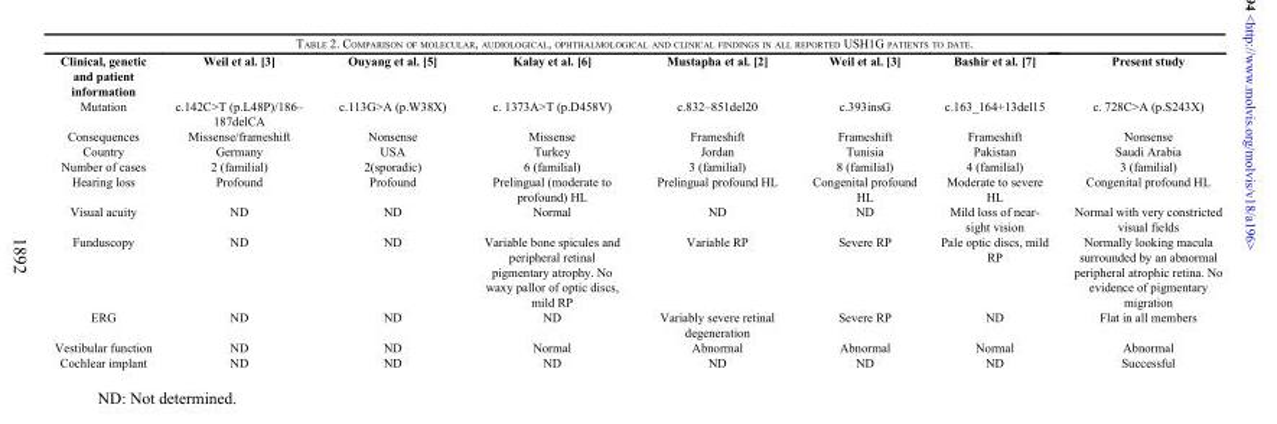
<table><thead><tr><td>Clinical, genetic and patient information</td><td>Weil et al. [3]</td><td>Ouyang et al. [5]</td><td>Kalay et al. [6]</td><td>Mustapha et al. [2]</td><td>Weil et al. [3]</td><td>Bashir et al. [7]</td><td>Present study</td></tr></thead><tbody><tr><td>Mutation</td><td>c.142C&gt;T (p.L48P)/186– 187delCA</td><td>c.113G&gt;A (p.W38X)</td><td>c. 1373A&gt;T (p.D458V)</td><td>c.832–851del20</td><td>c.393insG</td><td>c.163_164+13del15</td><td>c. 728C&gt;A (p.S243X)</td></tr><tr><td>Consequences</td><td>Missense/frameshift</td><td>Nonsense</td><td>Missense</td><td>Frameshift</td><td>Frameshift</td><td>Frameshift</td><td>Nonsense</td></tr><tr><td>Country</td><td>Germany</td><td>USA</td><td>Turkey</td><td>Jordan</td><td>Tunisia</td><td>Pakistan</td><td>Saudi Arabia</td></tr><tr><td>Number of cases</td><td>2 (familial)</td><td>2(sporadic)</td><td>6 (familial)</td><td>3 (familial)</td><td>8 (familial)</td><td>4 (familial)</td><td>3 (familial)</td></tr><tr><td>Hearing loss</td><td>Profound</td><td>Profound</td><td>Prelingual (moderate to profound) HL</td><td>Prelingual profound HL</td><td>Congenital profound HL</td><td>Moderate to severe HL</td><td>Congenital profound HL</td></tr><tr><td>Visual acuity</td><td>ND</td><td>ND</td><td>Normal</td><td>ND</td><td>ND</td><td>Mild loss of near- sight vision</td><td>Normal with very constricted visual fields</td></tr><tr><td>Funduscopy</td><td>ND</td><td>ND</td><td>Variable bone spicules and peripheral retinal pigmentary atrophy. No waxy pallor of optic discs, mild RP</td><td>Variable RP</td><td>Severe RP</td><td>Pale optic discs, mild RP</td><td>Normally looking macula surrounded by an abnormal peripheral atrophic retina. No evidence of pigmentary migration</td></tr><tr><td>ERG</td><td>ND</td><td>ND</td><td>ND</td><td>Variably severe retinal degeneration</td><td>Severe RP</td><td>ND</td><td>Flat in all members</td></tr><tr><td>Vestibular function</td><td>ND</td><td>ND</td><td>Normal</td><td>Abnormal</td><td>Abnormal</td><td>Normal</td><td>Abnormal</td></tr><tr><td>Cochlear implant</td><td>ND</td><td>ND</td><td>ND</td><td>ND</td><td>ND</td><td>ND</td><td>Successful</td></tr></tbody></table>